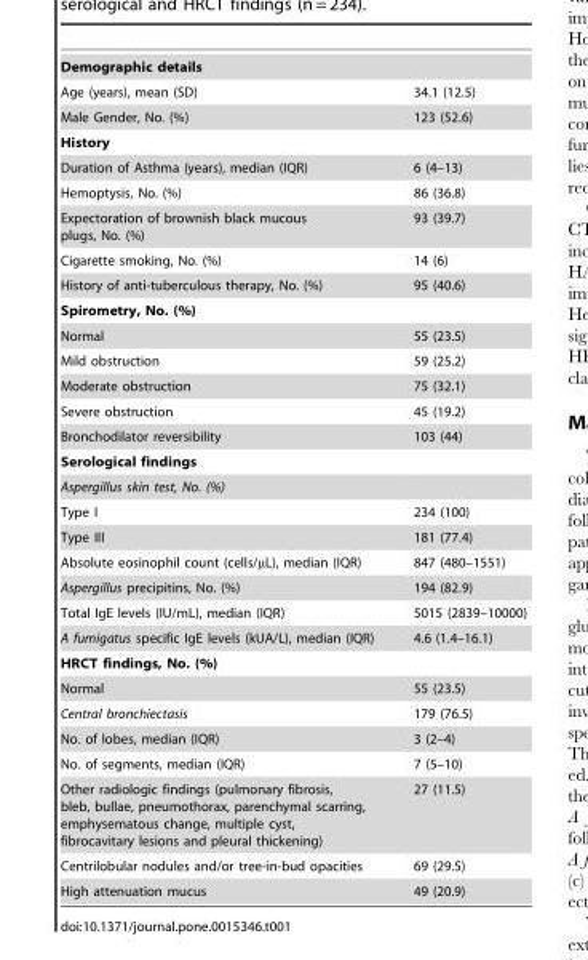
<table><tbody><tr><td colspan="2">Demographic details</td></tr><tr><td>Age (years), mean (SD)</td><td>34.1 (12.5)</td></tr><tr><td>Male Gender, No. (%)</td><td>123 (52.6)</td></tr><tr><td colspan="2">History</td></tr><tr><td>Duration of Asthma (years), median (IQR)</td><td>6 (4–13)</td></tr><tr><td>Hemoptysis, No. (%)</td><td>86 (36.8)</td></tr><tr><td>Expectoration of brownish black mucous plugs, No. (%)</td><td>93 (39.7)</td></tr><tr><td>Cigarette smoking, No. (%)</td><td>14 (6)</td></tr><tr><td>History of anti-tuberculous therapy, No. (%)</td><td>95 (40.6)</td></tr><tr><td colspan="2">Spirometry, No. (%)</td></tr><tr><td>Normal</td><td>55 (23.5)</td></tr><tr><td>Mild obstruction</td><td>59 (25.2)</td></tr><tr><td>Moderate obstruction</td><td>75 (32.1)</td></tr><tr><td>Severe obstruction</td><td>45 (19.2)</td></tr><tr><td>Bronchodilator reversibility</td><td>103 (44)</td></tr><tr><td colspan="2">Serological findings</td></tr><tr><td colspan="2">Aspergillus skin test, No. (%)</td></tr><tr><td>Type I</td><td>234 (100)</td></tr><tr><td>Type III</td><td>181 (77.4)</td></tr><tr><td>Absolute eosinophil count (cells/µL), median (IQR)</td><td>847 (480–1551)</td></tr><tr><td>Aspergillus precipitins, No. (%)</td><td>194 (82.9)</td></tr><tr><td>Total IgE levels (IU/mL), median (IQR)</td><td>5015 (2839–10000)</td></tr><tr><td>A fumigatus specific IgE levels (kUA/L), median (IQR)</td><td>4.6 (1.4–16.1)</td></tr><tr><td colspan="2">HRCT findings, No. (%)</td></tr><tr><td>Normal</td><td>55 (23.5)</td></tr><tr><td>Central bronchiectasis</td><td>179 (76.5)</td></tr><tr><td>No. of lobes, median (IQR)</td><td>3 (2–4)</td></tr><tr><td>No. of segments, median (IQR)</td><td>7 (5–10)</td></tr><tr><td>Other radiologic findings (pulmonary fibrosis, bleb, bullae, pneumothorax, parenchymal scarring, emphysematous change, multiple cyst, fibrocavitary lesions and pleural thickening)</td><td>27 (11.5)</td></tr><tr><td>Centrilobular nodules and/or tree-in-bud opacities</td><td>69 (29.5)</td></tr><tr><td>High attenuation mucus</td><td>49 (20.9)</td></tr></tbody></table>